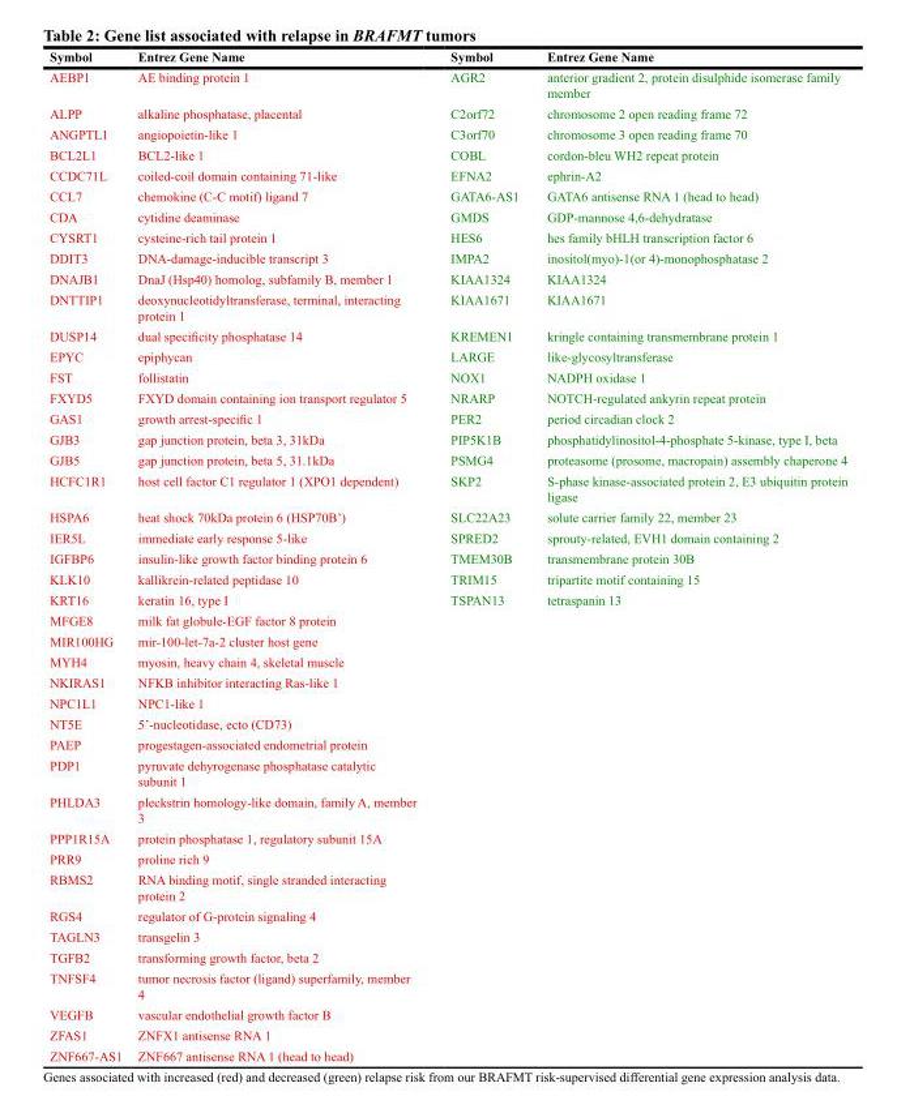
<table><thead><tr><td>Symbol</td><td>Entrez Gene Name</td><td>Symbol</td><td>Entrez Gene Name</td></tr></thead><tbody><tr><td>AEBP1</td><td>AE binding protein 1</td><td>AGR2</td><td>anterior gradient 2, protein disulphide isomerase family member</td></tr><tr><td>ALPP</td><td>alkaline phosphatase, placental</td><td>C2orf72</td><td>chromosome 2 open reading frame 72</td></tr><tr><td>ANGPTL1</td><td>angiopoietin-like 1</td><td>C3orf70</td><td>chromosome 3 open reading frame 70</td></tr><tr><td>BCL2L1</td><td>BCL2-like 1</td><td>COBL</td><td>cordon-bleu WH2 repeat protein</td></tr><tr><td>CCDC71L</td><td>coiled-coil domain containing 71-like</td><td>EFNA2</td><td>ephrin-A2</td></tr><tr><td>CCL7</td><td>chemokine (C-C motif) ligand 7</td><td>GATA6-AS1</td><td>GATA6 antisense RNA 1 (head to head)</td></tr><tr><td>CDA</td><td>cytidine deaminase</td><td>GMDS</td><td>GDP-mannose 4,6-dehydratase</td></tr><tr><td>CYSRT1</td><td>cysteine-rich tail protein 1</td><td>HES6</td><td>hes family bHLH transcription factor 6</td></tr><tr><td>DDIT3</td><td>DNA-damage-inducible transcript 3</td><td>IMPA2</td><td>inositol(myo)-1(or 4)-monophosphatase 2</td></tr><tr><td>DNAJB1</td><td>DnaJ (Hsp40) homolog, subfamily B, member 1</td><td>KIAA1324</td><td>KIAA1324</td></tr><tr><td>DNTTIP1</td><td>deoxynucleotidyltransferase, terminal, interacting protein 1</td><td>KIAA1671</td><td>KIAA1671</td></tr><tr><td>DUSP14</td><td>dual specificity phosphatase 14</td><td>KREMEN1</td><td>kringle containing transmembrane protein 1</td></tr><tr><td>EPYC</td><td>epiphycan</td><td>LARGE</td><td>like-glycosyltransferase</td></tr><tr><td>FST</td><td>follistatin</td><td>NOX1</td><td>NADPH oxidase 1</td></tr><tr><td>FXYD5</td><td>FXYD domain containing ion transport regulator 5</td><td>NRARP</td><td>NOTCH-regulated ankyrin repeat protein</td></tr><tr><td>GAS1</td><td>growth arrest-specific 1</td><td>PER2</td><td>period circadian clock 2</td></tr><tr><td>GJB3</td><td>gap junction protein, beta 3, 31kDa</td><td>PIP5K1B</td><td>phosphatidylinositol-4-phosphate 5-kinase, type I, beta</td></tr><tr><td>GJB5</td><td>gap junction protein, beta 5, 31.1kDa</td><td>PSMG4</td><td>proteasome (prosome, macropain) assembly chaperone 4</td></tr><tr><td>HCFC1R1</td><td>host cell factor C1 regulator 1 (XPO1 dependent)</td><td>SKP2</td><td>S-phase kinase-associated protein 2, E3 ubiquitin protein ligase</td></tr><tr><td>HSPA6</td><td>heat shock 70kDa protein 6 (HSP70B’)</td><td>SLC22A23</td><td>solute carrier family 22, member 23</td></tr><tr><td>IER5L</td><td>immediate early response 5-like</td><td>SPRED2</td><td>sprouty-related, EVH1 domain containing 2</td></tr><tr><td>IGFBP6</td><td>insulin-like growth factor binding protein 6</td><td>TMEM30B</td><td>transmembrane protein 30B</td></tr><tr><td>KLK10</td><td>kallikrein-related peptidase 10</td><td>TRIM15</td><td>tripartite motif containing 15</td></tr><tr><td>KRT16</td><td>keratin 16, type I</td><td>TSPAN13</td><td>tetraspanin 13</td></tr><tr><td>MFGE8</td><td>milk fat globule-EGF factor 8 protein</td><td></td><td></td></tr><tr><td>MIR100HG</td><td>mir-100-let-7a-2 cluster host gene</td><td></td><td></td></tr><tr><td>MYH4</td><td>myosin, heavy chain 4, skeletal muscle</td><td></td><td></td></tr><tr><td>NKIRAS1</td><td>NFKB inhibitor interacting Ras-like 1</td><td></td><td></td></tr><tr><td>NPC1L1</td><td>NPC1-like 1</td><td></td><td></td></tr><tr><td>NT5E</td><td>5’-nucleotidase, ecto (CD73)</td><td></td><td></td></tr><tr><td>PAEP</td><td>progestagen-associated endometrial protein</td><td></td><td></td></tr><tr><td>PDP1</td><td>pyruvate dehyrogenase phosphatase catalytic subunit 1</td><td></td><td></td></tr><tr><td>PHLDA3</td><td>pleckstrin homology-like domain, family A, member 3</td><td></td><td></td></tr><tr><td>PPP1R15A</td><td>protein phosphatase 1, regulatory subunit 15A</td><td></td><td></td></tr><tr><td>PRR9</td><td>proline rich 9</td><td></td><td></td></tr><tr><td>RBMS2</td><td>RNA binding motif, single stranded interacting protein 2</td><td></td><td></td></tr><tr><td>RGS4</td><td>regulator of G-protein signaling 4</td><td></td><td></td></tr><tr><td>TAGLN3</td><td>transgelin 3</td><td></td><td></td></tr><tr><td>TGFB2</td><td>transforming growth factor, beta 2</td><td></td><td></td></tr><tr><td>TNFSF4</td><td>tumor necrosis factor (ligand) superfamily, member 4</td><td></td><td></td></tr><tr><td>VEGFB</td><td>vascular endothelial growth factor B</td><td></td><td></td></tr><tr><td>ZFAS1</td><td>ZNFX1 antisense RNA 1</td><td></td><td></td></tr><tr><td>ZNF667-AS1</td><td>ZNF667 antisense RNA 1 (head to head)</td><td></td><td></td></tr></tbody></table>